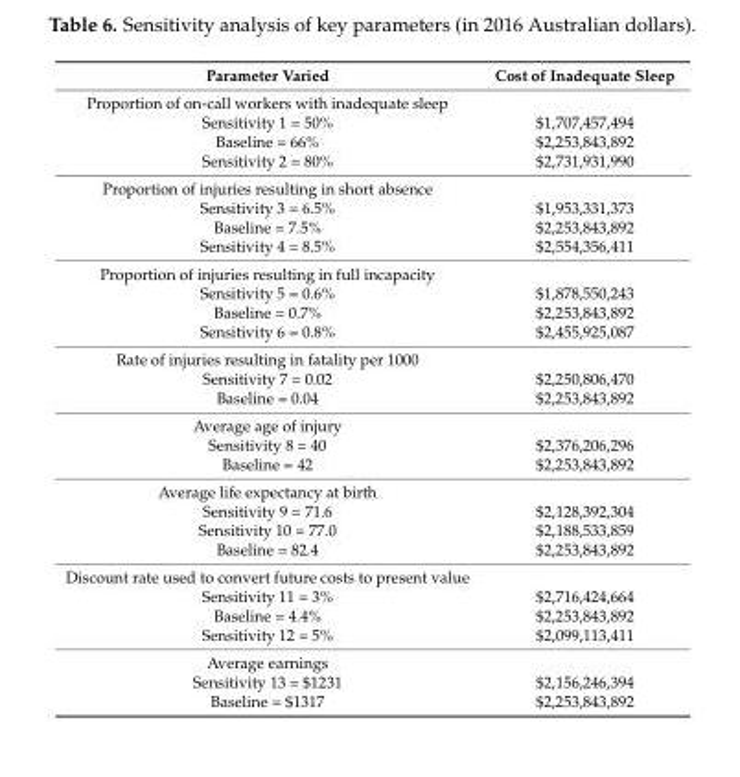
<table><thead><tr><td>Parameter Varied</td><td>Cost of Inadequate Sleep</td></tr></thead><tbody><tr><td colspan="2">Proportion of on-call workers with inadequate sleep</td></tr><tr><td>Sensitivity 1 = 50%</td><td>$1,707,457,494</td></tr><tr><td>Baseline = 66%</td><td>$2,253,843,892</td></tr><tr><td>Sensitivity 2 = 80%</td><td>$2,731,931,990</td></tr><tr><td colspan="2">Proportion of injuries resulting in short absence</td></tr><tr><td>Sensitivity 3 = 6.5%</td><td>$1,953,331,373</td></tr><tr><td>Baseline = 7.5%</td><td>$2,253,843,892</td></tr><tr><td>Sensitivity 4 = 8.5%</td><td>$2,554,356,411</td></tr><tr><td colspan="2">Proportion of injuries resulting in full incapacity</td></tr><tr><td>Sensitivity 5 = 0.6%</td><td>$1,878,550,243</td></tr><tr><td>Baseline = 0.7%</td><td>$2,253,843,892</td></tr><tr><td>Sensitivity 6 = 0.8%</td><td>$2,455,925,087</td></tr><tr><td colspan="2">Rate of injuries resulting in fatality per 1000</td></tr><tr><td>Sensitivity 7 = 0.02</td><td>$2,250,806,470</td></tr><tr><td>Baseline = 0.04</td><td>$2,253,843,892</td></tr><tr><td colspan="2">Average age of injury</td></tr><tr><td>Sensitivity 8 = 40</td><td>$2,376,206,296</td></tr><tr><td>Baseline = 42</td><td>$2,253,843,892</td></tr><tr><td colspan="2">Average life expectancy at birth</td></tr><tr><td>Sensitivity 9 = 71.6</td><td>$2,128,392,304</td></tr><tr><td>Sensitivity 10 = 77.0</td><td>$2,188,533,859</td></tr><tr><td>Baseline = 82.4</td><td>$2,253,843,892</td></tr><tr><td colspan="2">Discount rate used to convert future costs to present value</td></tr><tr><td>Sensitivity 11 = 3%</td><td>$2,716,424,664</td></tr><tr><td>Baseline = 4.4%</td><td>$2,253,843,892</td></tr><tr><td>Sensitivity 12 = 5%</td><td>$2,099,113,411</td></tr><tr><td colspan="2">Average earnings</td></tr><tr><td>Sensitivity 13 = $1231</td><td>$2,156,246,394</td></tr><tr><td>Baseline = $1317</td><td>$2,253,843,892</td></tr></tbody></table>